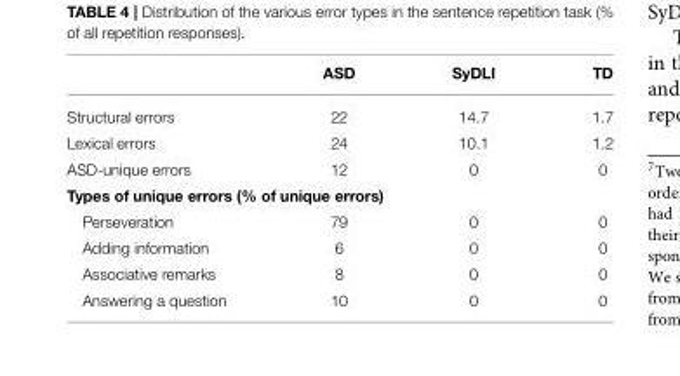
<table><thead><tr><td></td><td>ASD</td><td>SyDLI</td><td>TD</td></tr></thead><tbody><tr><td>Structural errors</td><td>22</td><td>14.7</td><td>1.7</td></tr><tr><td>Lexical errors</td><td>24</td><td>10.1</td><td>1.2</td></tr><tr><td>ASD-unique errors</td><td>12</td><td>0</td><td>0</td></tr><tr><td colspan="4">Types of unique errors (% of unique errors)</td></tr><tr><td>Perseveration</td><td>79</td><td>0</td><td>0</td></tr><tr><td>Adding information</td><td>6</td><td>0</td><td>0</td></tr><tr><td>Associative remarks</td><td>8</td><td>0</td><td>0</td></tr><tr><td>Answering a question</td><td>10</td><td>0</td><td>0</td></tr></tbody></table>